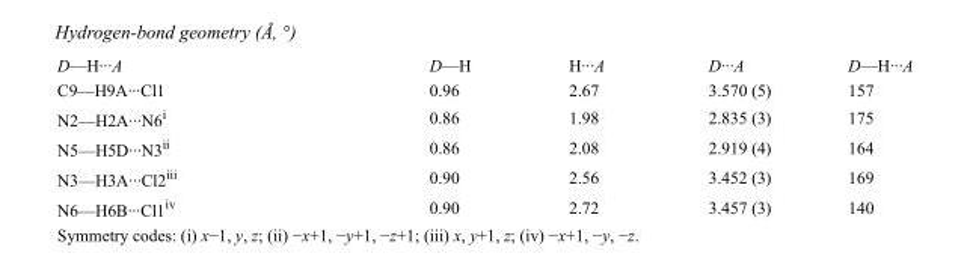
<table><tbody><tr><td>D—H···A</td><td>D—H</td><td>H···A</td><td>D···A</td><td>D—H···A</td></tr><tr><td>C9—H9A···Cl1</td><td>0.96</td><td>2.67</td><td>3.570 (5)</td><td>157</td></tr><tr><td>N2—H2A···N6<sup>i</sup></td><td>0.86</td><td>1.98</td><td>2.835 (3)</td><td>175</td></tr><tr><td>N5—H5D···N3<sup>ii</sup></td><td>0.86</td><td>2.08</td><td>2.919 (4)</td><td>164</td></tr><tr><td>N3—H3A···Cl2<sup>iii</sup></td><td>0.90</td><td>2.56</td><td>3.452 (3)</td><td>169</td></tr><tr><td>N6—H6B···Cl1<sup>iv</sup></td><td>0.90</td><td>2.72</td><td>3.457 (3)</td><td>140</td></tr></tbody></table>